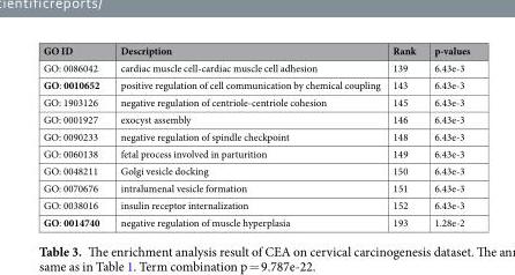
<table><thead><tr><td>GO ID</td><td>Description</td><td>Rank</td><td>p-values</td></tr></thead><tbody><tr><td>GO: 0086042</td><td>cardiac muscle cell-cardiac muscle cell adhesion</td><td>139</td><td>6.43e-3</td></tr><tr><td>GO: 0010652</td><td>positive regulation of cell communication by chemical coupling</td><td>143</td><td>6.43e-3</td></tr><tr><td>GO: 1903126</td><td>negative regulation of centriole-centriole cohesion</td><td>145</td><td>6.43e-3</td></tr><tr><td>GO: 0001927</td><td>exocyst assembly</td><td>146</td><td>6.43e-3</td></tr><tr><td>GO: 0090233</td><td>negative regulation of spindle checkpoint</td><td>148</td><td>6.43e-3</td></tr><tr><td>GO: 0060138</td><td>fetal process involved in parturition</td><td>149</td><td>6.43e-3</td></tr><tr><td>GO: 0048211</td><td>Golgi vesicle docking</td><td>150</td><td>6.43e-3</td></tr><tr><td>GO: 0070676</td><td>intralumenal vesicle formation</td><td>151</td><td>6.43e-3</td></tr><tr><td>GO: 0038016</td><td>insulin receptor internalization</td><td>152</td><td>6.43e-3</td></tr><tr><td>GO: 0014740</td><td>negative regulation of muscle hyperplasia</td><td>193</td><td>1.28e-2</td></tr></tbody></table>